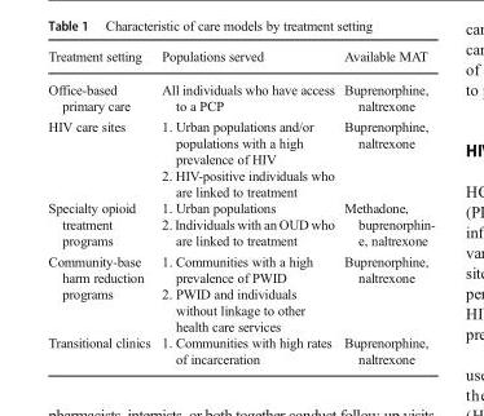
<table><thead><tr><td>Treatment setting</td><td>Populations served</td><td>Available MAT</td></tr></thead><tbody><tr><td>Office-based primary care</td><td>All individuals who have access to a PCP</td><td>Buprenorphine, naltrexone</td></tr><tr><td>HIV care sites</td><td>1. Urban populations and/or populations with a high prevalence of HIV 2. HIV-positive individuals who are linked to treatment</td><td>Buprenorphine, naltrexone</td></tr><tr><td>Specialty opioid treatment programs</td><td>1. Urban populations 2. Individuals with an OUD who are linked to treatment</td><td>Methadone, buprenorphin- e, naltrexone</td></tr><tr><td>Community-base harm reduction programs</td><td>1. Communities with a high prevalence of PWID 2. PWID and individuals without linkage to other health care services</td><td>Buprenorphine, naltrexone</td></tr><tr><td>Transitional clinics</td><td>1. Communities with high rates of incarceration</td><td>Buprenorphine, naltrexone</td></tr></tbody></table>